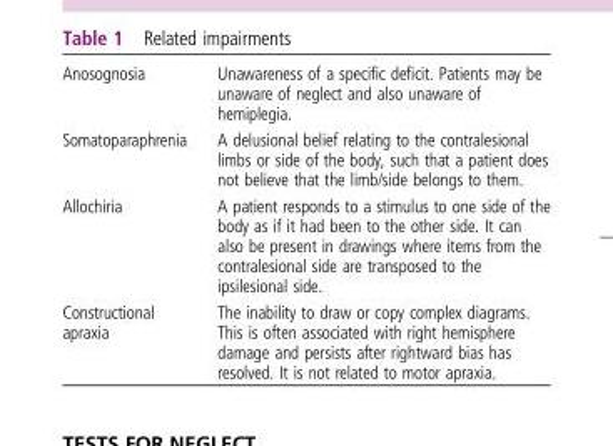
<table><tbody><tr><td>Anosognosia</td><td>Unawareness of a specific deficit. Patients may be unaware of neglect and also unaware of hemiplegia.</td></tr><tr><td>Somatoparaphrenia</td><td>A delusional belief relating to the contralesional limbs or side of the body, such that a patient does not believe that the limb/side belongs to them.</td></tr><tr><td>Allochiria</td><td>A patient responds to a stimulus to one side of the body as if it had been to the other side. It can also be present in drawings where items from the contralesional side are transposed to the ipsilesional side.</td></tr><tr><td>Constructional apraxia</td><td>The inability to draw or copy complex diagrams. This is often associated with right hemisphere damage and persists after rightward bias has resolved. It is not related to motor apraxia.</td></tr></tbody></table>